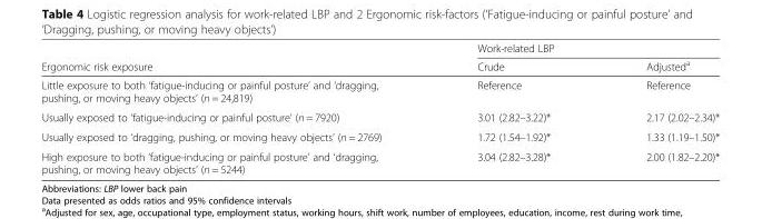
<table><thead><tr><td rowspan="2">Ergonomic risk exposure</td><td colspan="2">Work-related LBP</td></tr><tr><td>Crude</td><td>Adjusted<sup>a</sup></td></tr></thead><tbody><tr><td>Little exposure to both ‘fatigue-inducing or painful posture’ and ‘dragging, pushing, or moving heavy objects’ (n = 24,819)</td><td>Reference</td><td>Reference</td></tr><tr><td>Usually exposed to ‘fatigue-inducing or painful posture’ (n = 7920)</td><td>3.01 (2.82–3.22)*</td><td>2.17 (2.02–2.34)*</td></tr><tr><td>Usually exposed to ‘dragging, pushing, or moving heavy objects’ (n = 2769)</td><td>1.72 (1.54–1.92)*</td><td>1.33 (1.19–1.50)*</td></tr><tr><td>High exposure to both ‘fatigue-inducing or painful posture’ and ‘dragging, pushing, or moving heavy objects’ (n = 5244)</td><td>3.04 (2.82–3.28)*</td><td>2.00 (1.82–2.20)*</td></tr></tbody></table>